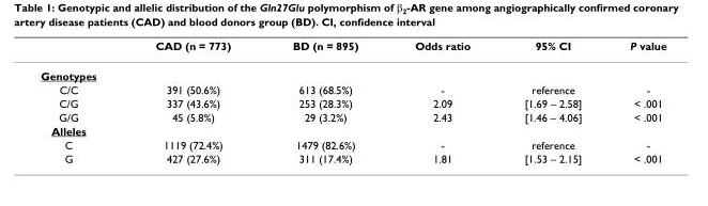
<table><thead><tr><td></td><td>CAD (n = 773)</td><td>BD (n = 895)</td><td>Odds ratio</td><td>95% CI</td><td>P value</td></tr></thead><tbody><tr><td colspan="6">Genotypes</td></tr><tr><td>C/C</td><td>391 (50.6%)</td><td>613 (68.5%)</td><td>-</td><td>reference</td><td>-</td></tr><tr><td>C/G</td><td>337 (43.6%)</td><td>253 (28.3%)</td><td>2.09</td><td>[1.69 – 2.58]</td><td>&lt; .001</td></tr><tr><td>G/G</td><td>45 (5.8%)</td><td>29 (3.2%)</td><td>2.43</td><td>[1.46 – 4.06]</td><td>&lt; .001</td></tr><tr><td colspan="6">Alleles</td></tr><tr><td>C</td><td>1119 (72.4%)</td><td>1479 (82.6%)</td><td>-</td><td>reference</td><td>-</td></tr><tr><td>G</td><td>427 (27.6%)</td><td>311 (17.4%)</td><td>1.81</td><td>[1.53 – 2.15]</td><td>&lt; .001</td></tr></tbody></table>